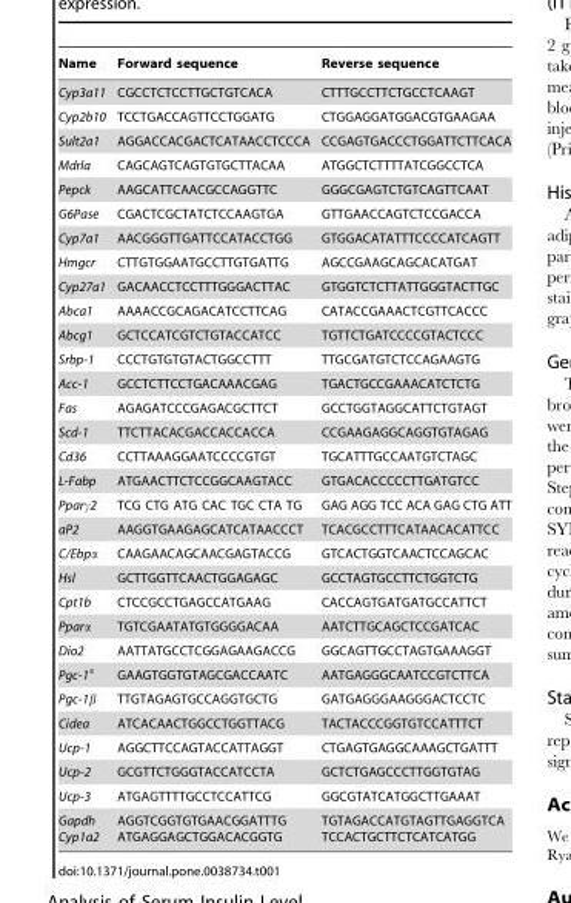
<table><thead><tr><td>Name</td><td>Forward sequence</td><td>Reverse sequence</td></tr></thead><tbody><tr><td>Cyp3a11</td><td>CGCCTCTCCTTGCTGTCACA</td><td>CTTTGCCTTCTGCCTCAAGT</td></tr><tr><td>Cyp2b10</td><td>TCCTGACCAGTTCCTGGATG</td><td>CTGGAGGATGGACGTGAAGAA</td></tr><tr><td>Sult2a1</td><td>AGGACCACGACTCATAACCTCCCA</td><td>CCGAGTGACCCTGGATTCTTCACA</td></tr><tr><td>Mdrla</td><td>CAGCAGTCAGTGTGCTTACAA</td><td>ATGGCTCTTTTATCGGCCTCA</td></tr><tr><td>Pepck</td><td>AAGCATTCAACGCCAGGTTC</td><td>GGGCGAGTCTGTCAGTTCAAT</td></tr><tr><td>G6Pase</td><td>CGACTCGCTATCTCCAAGTGA</td><td>GTTGAACCAGTCTCCGACCA</td></tr><tr><td>Cyp7a1</td><td>AACGGGTTGATTCCATACCTGG</td><td>GTGGACATATTTCCCCATCAGTT</td></tr><tr><td>Hmgcr</td><td>CTTGTGGAATGCCTTGTGATTG</td><td>AGCCGAAGCAGCACATGAT</td></tr><tr><td>Cyp27a1</td><td>GACAACCTCCTTTGGGACTTAC</td><td>GTGGTCTCTTATTGGGTACTTGC</td></tr><tr><td>Abca1</td><td>AAAACCGCAGACATCCTTCAG</td><td>CATACCGAAACTCGTTCACCC</td></tr><tr><td>Abcg1</td><td>GCTCCATCGTCTGTACCATCC</td><td>TGTTCTGATCCCCGTACTCCC</td></tr><tr><td>Srbp-1</td><td>CCCTGTGTGTACTGGCCTTT</td><td>TTGCGATGTCTCCAGAAGTG</td></tr><tr><td>Acc-1</td><td>GCCTCTTCCTGACAAACGAG</td><td>TGACTGCCGAAACATCTCTG</td></tr><tr><td>Fas</td><td>AGAGATCCCGAGACGCTTCT</td><td>GCCTGGTAGGCATTCTGTAGT</td></tr><tr><td>Scd-1</td><td>TTCTTACACGACCACCACCA</td><td>CCGAAGAGGCAGGTGTAGAG</td></tr><tr><td>Cd36</td><td>CCTTAAAGGAATCCCCGTGT</td><td>TGCATTTGCCAATGTCTAGC</td></tr><tr><td>L-Fabp</td><td>ATGAACTTCTCCGGCAAGTACC</td><td>GTGACACCCCCTTGATGTCC</td></tr><tr><td>Pparγ2</td><td>TCG CTG ATG CAC TGC CTA TG</td><td>GAG AGG TCC ACA GAG CTG ATT</td></tr><tr><td>aP2</td><td>AAGGTGAAGAGCATCATAACCCT</td><td>TCACGCCTTTCATAACACATTCC</td></tr><tr><td>C/Ebpα</td><td>CAAGAACAGCAACGAGTACCG</td><td>GTCACTGGTCAACTCCAGCAC</td></tr><tr><td>Hsl</td><td>GCTTGGTTCAACTGGAGAGC</td><td>GCCTAGTGCCTTCTGGTCTG</td></tr><tr><td>Cpt1b</td><td>CTCCGCCTGAGCCATGAAG</td><td>CACCAGTGATGATGCCATTCT</td></tr><tr><td>Pparα</td><td>TGTCGAATATGTGGGGACAA</td><td>AATCTTGCAGCTCCGATCAC</td></tr><tr><td>Dio2</td><td>AATTATGCCTCGGAGAAGACCG</td><td>GGCAGTTGCCTAGTGAAAGGT</td></tr><tr><td>Pgc-1<sup>α</sup></td><td>GAAGTGGTGTAGCGACCAATC</td><td>AATGAGGGCAATCCGTCTTCA</td></tr><tr><td>Pgc-1β</td><td>TTGTAGAGTGCCAGGTGCTG</td><td>GATGAGGGAAGGGACTCCTC</td></tr><tr><td>Cidea</td><td>ATCACAACTGGCCTGGTTACG</td><td>TACTACCCGGTGTCCATTTCT</td></tr><tr><td>Ucp-1</td><td>AGGCTTCCAGTACCATTAGGT</td><td>CTGAGTGAGGCAAAGCTGATTT</td></tr><tr><td>Ucp-2</td><td>GCGTTCTGGGTACCATCCTA</td><td>GCTCTGAGCCCTTGGTGTAG</td></tr><tr><td>Ucp-3</td><td>ATGAGTTTTGCCTCCATTCG</td><td>GGCGTATCATGGCTTGAAAT</td></tr><tr><td>Gapdh Cyp1a2</td><td>AGGTCGGTGTGAACGGATTTG ATGAGGAGCTGGACACGGTG</td><td>TGTAGACCATGTAGTTGAGGTCA TCCACTGCTTCTCATCATGG</td></tr></tbody></table>